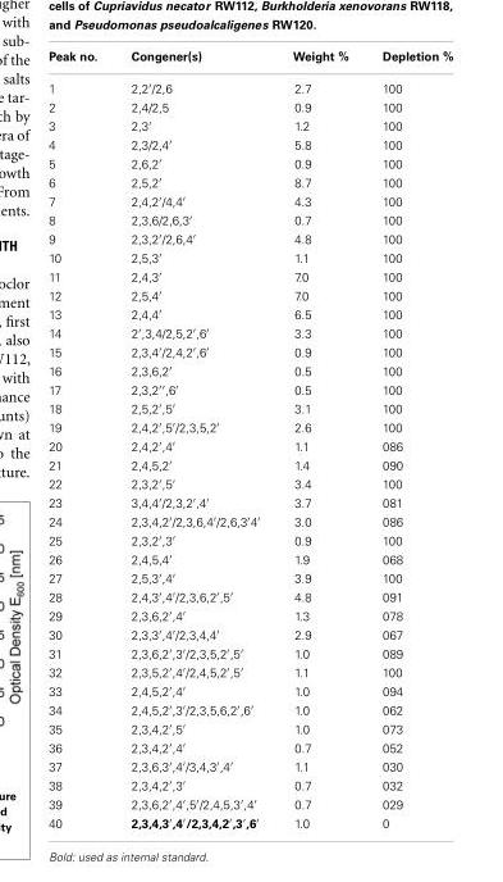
<table><thead><tr><td>Peak no.</td><td>Congener(s)</td><td>Weight %</td><td>Depletion %</td></tr></thead><tbody><tr><td>1</td><td>2,2′/2,6</td><td>2.7</td><td>100</td></tr><tr><td>2</td><td>2,4/2,5</td><td>0.9</td><td>100</td></tr><tr><td>3</td><td>2,3′</td><td>1.2</td><td>100</td></tr><tr><td>4</td><td>2,3/2,4′</td><td>5.8</td><td>100</td></tr><tr><td>5</td><td>2,6,2′</td><td>0.9</td><td>100</td></tr><tr><td>6</td><td>2,5,2′</td><td>8.7</td><td>100</td></tr><tr><td>7</td><td>2,4,2′/4,4′</td><td>4.3</td><td>100</td></tr><tr><td>8</td><td>2,3,6/2,6,3′</td><td>0.7</td><td>100</td></tr><tr><td>9</td><td>2,3,2′/2,6,4′</td><td>4.8</td><td>100</td></tr><tr><td>10</td><td>2,5,3′</td><td>1.1</td><td>100</td></tr><tr><td>11</td><td>2,4,3′</td><td>7.0</td><td>100</td></tr><tr><td>12</td><td>2,5,4′</td><td>7.0</td><td>100</td></tr><tr><td>13</td><td>2,4,4′</td><td>6.5</td><td>100</td></tr><tr><td>14</td><td>2′,3,4/2,5,2′,6′</td><td>3.3</td><td>100</td></tr><tr><td>15</td><td>2,3,4′/2,4,2′,6′</td><td>0.9</td><td>100</td></tr><tr><td>16</td><td>2,3,6,2′</td><td>0.5</td><td>100</td></tr><tr><td>17</td><td>2,3,2′′,6′</td><td>0.5</td><td>100</td></tr><tr><td>18</td><td>2,5,2′,5′</td><td>3.1</td><td>100</td></tr><tr><td>19</td><td>2,4,2′,5′/2,3,5,2′</td><td>2.6</td><td>100</td></tr><tr><td>20</td><td>2,4,2′,4′</td><td>1.1</td><td>086</td></tr><tr><td>21</td><td>2,4,5,2′</td><td>1.4</td><td>090</td></tr><tr><td>22</td><td>2,3,2′,5′</td><td>3.4</td><td>100</td></tr><tr><td>23</td><td>3,4,4′/2,3,2′,4′</td><td>3.7</td><td>081</td></tr><tr><td>24</td><td>2,3,4,2′/2,3,6,4′/2,6,3′4′</td><td>3.0</td><td>086</td></tr><tr><td>25</td><td>2,3,2′,3′</td><td>0.9</td><td>100</td></tr><tr><td>26</td><td>2,4,5,4′</td><td>1.9</td><td>068</td></tr><tr><td>27</td><td>2,5,3′,4′</td><td>3.9</td><td>100</td></tr><tr><td>28</td><td>2,4,3′,4′/2,3,6,2′,5′</td><td>4.8</td><td>091</td></tr><tr><td>29</td><td>2,3,6,2′,4′</td><td>1.3</td><td>078</td></tr><tr><td>30</td><td>2,3,3′,4′/2,3,4,4′</td><td>2.9</td><td>067</td></tr><tr><td>31</td><td>2,3,6,2′,3′/2,3,5,2′,5′</td><td>1.0</td><td>089</td></tr><tr><td>32</td><td>2,3,5,2′,4′/2,4,5,2′,5′</td><td>1.1</td><td>100</td></tr><tr><td>33</td><td>2,4,5,2′,4′</td><td>1.0</td><td>094</td></tr><tr><td>34</td><td>2,4,5,2′,3′/2,3,5,6,2′,6′</td><td>1.0</td><td>062</td></tr><tr><td>35</td><td>2,3,4,2′,5′</td><td>1.0</td><td>073</td></tr><tr><td>36</td><td>2,3,4,2′,4′</td><td>0.7</td><td>052</td></tr><tr><td>37</td><td>2,3,6,3′,4′/3,4,3′,4′</td><td>1.1</td><td>030</td></tr><tr><td>38</td><td>2,3,4,2′,3′</td><td>0.7</td><td>032</td></tr><tr><td>39</td><td>2,3,6,2′,4′,5′/2,4,5,3′,4′</td><td>0.7</td><td>029</td></tr><tr><td>40</td><td>2,3,4,3′,4′/2,3,4,2′,3′,6′</td><td>1.0</td><td>0</td></tr></tbody></table>